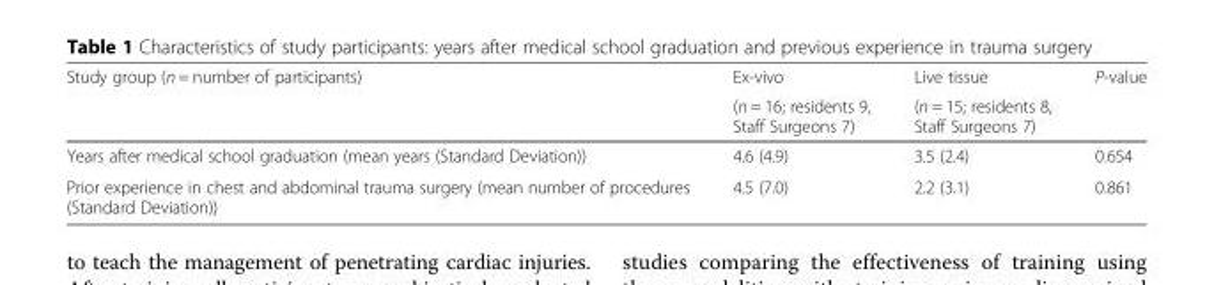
<table><thead><tr><td rowspan="2">Study group (n = number of participants)</td><td rowspan="2">Ex-vivo (n = 16; residents 9, Staff Surgeons 7)</td><td rowspan="2">Live tissue (n = 15; residents 8, Staff Surgeons 7)</td><td rowspan="2">P-value</td></tr><tr></tr></thead><tbody><tr><td>Years after medical school graduation (mean years (Standard Deviation))</td><td>4.6 (4.9)</td><td>3.5 (2.4)</td><td>0.654</td></tr><tr><td>Prior experience in chest and abdominal trauma surgery (mean number of procedures (Standard Deviation))</td><td>4.5 (7.0)</td><td>2.2 (3.1)</td><td>0.861</td></tr></tbody></table>